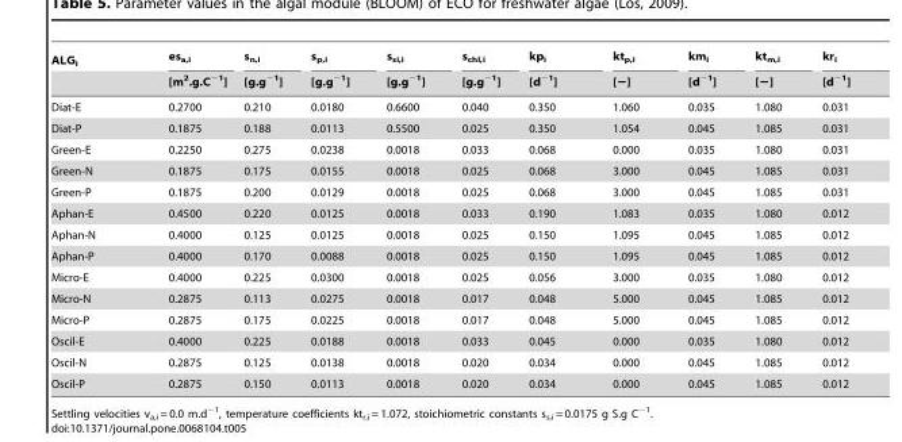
<table><thead><tr><td rowspan="2">ALG<sub>i</sub></td><td rowspan="2">es<sub>a,i</sub> [m<sup>2</sup>.g.C<sup>−1</sup>]</td><td rowspan="2">s<sub>n,i</sub> [g.g<sup>−1</sup>]</td><td rowspan="2">s<sub>p,i</sub> [g.g<sup>−1</sup>]</td><td rowspan="2">s<sub>si,i</sub> [g.g<sup>−1</sup>]</td><td rowspan="2">s<sub>chl,i</sub> [g.g<sup>−1</sup>]</td><td rowspan="2">kp<sub>i</sub> [d<sup>−1</sup>]</td><td rowspan="2">kt<sub>p,i</sub> [−]</td><td rowspan="2">km<sub>i</sub> [d<sup>−1</sup>]</td><td rowspan="2">kt<sub>m,i</sub> [−]</td><td rowspan="2">kr<sub>i</sub> [d<sup>−1</sup>]</td></tr><tr></tr></thead><tbody><tr><td>Diat-E</td><td>0.2700</td><td>0.210</td><td>0.0180</td><td>0.6600</td><td>0.040</td><td>0.350</td><td>1.060</td><td>0.035</td><td>1.080</td><td>0.031</td></tr><tr><td>Diat-P</td><td>0.1875</td><td>0.188</td><td>0.0113</td><td>0.5500</td><td>0.025</td><td>0.350</td><td>1.054</td><td>0.045</td><td>1.085</td><td>0.031</td></tr><tr><td>Green-E</td><td>0.2250</td><td>0.275</td><td>0.0238</td><td>0.0018</td><td>0.033</td><td>0.068</td><td>0.000</td><td>0.035</td><td>1.080</td><td>0.031</td></tr><tr><td>Green-N</td><td>0.1875</td><td>0.175</td><td>0.0155</td><td>0.0018</td><td>0.025</td><td>0.068</td><td>3.000</td><td>0.045</td><td>1.085</td><td>0.031</td></tr><tr><td>Green-P</td><td>0.1875</td><td>0.200</td><td>0.0129</td><td>0.0018</td><td>0.025</td><td>0.068</td><td>3.000</td><td>0.045</td><td>1.085</td><td>0.031</td></tr><tr><td>Aphan-E</td><td>0.4500</td><td>0.220</td><td>0.0125</td><td>0.0018</td><td>0.033</td><td>0.190</td><td>1.083</td><td>0.035</td><td>1.080</td><td>0.012</td></tr><tr><td>Aphan-N</td><td>0.4000</td><td>0.125</td><td>0.0125</td><td>0.0018</td><td>0.025</td><td>0.150</td><td>1.095</td><td>0.045</td><td>1.085</td><td>0.012</td></tr><tr><td>Aphan-P</td><td>0.4000</td><td>0.170</td><td>0.0088</td><td>0.0018</td><td>0.025</td><td>0.150</td><td>1.095</td><td>0.045</td><td>1.085</td><td>0.012</td></tr><tr><td>Micro-E</td><td>0.4000</td><td>0.225</td><td>0.0300</td><td>0.0018</td><td>0.025</td><td>0.056</td><td>3.000</td><td>0.035</td><td>1.080</td><td>0.012</td></tr><tr><td>Micro-N</td><td>0.2875</td><td>0.113</td><td>0.0275</td><td>0.0018</td><td>0.017</td><td>0.048</td><td>5.000</td><td>0.045</td><td>1.085</td><td>0.012</td></tr><tr><td>Micro-P</td><td>0.2875</td><td>0.175</td><td>0.0225</td><td>0.0018</td><td>0.017</td><td>0.048</td><td>5.000</td><td>0.045</td><td>1.085</td><td>0.012</td></tr><tr><td>Oscil-E</td><td>0.4000</td><td>0.225</td><td>0.0188</td><td>0.0018</td><td>0.033</td><td>0.045</td><td>0.000</td><td>0.035</td><td>1.080</td><td>0.012</td></tr><tr><td>Oscil-N</td><td>0.2875</td><td>0.125</td><td>0.0138</td><td>0.0018</td><td>0.020</td><td>0.034</td><td>0.000</td><td>0.045</td><td>1.085</td><td>0.012</td></tr><tr><td>Oscil-P</td><td>0.2875</td><td>0.150</td><td>0.0113</td><td>0.0018</td><td>0.020</td><td>0.034</td><td>0.000</td><td>0.045</td><td>1.085</td><td>0.012</td></tr></tbody></table>